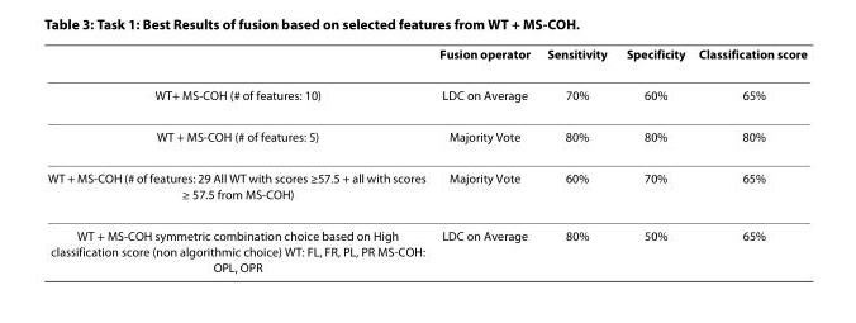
<table><thead><tr><td></td><td>Fusion operator</td><td>Sensitivity</td><td>Specificity</td><td>Classification score</td></tr></thead><tbody><tr><td>WT+ MS-COH (# of features: 10)</td><td>LDC on Average</td><td>70%</td><td>60%</td><td>65%</td></tr><tr><td>WT + MS-COH (# of features: 5)</td><td>Majority Vote</td><td>80%</td><td>80%</td><td>80%</td></tr><tr><td>WT + MS-COH (# of features: 29 All WT with scores ≥57.5 + all with scores ≥ 57.5 from MS-COH)</td><td>Majority Vote</td><td>60%</td><td>70%</td><td>65%</td></tr><tr><td>WT + MS-COH symmetric combination choice based on High classification score (non algorithmic choice) WT: FL, FR, PL, PR MS-COH: OPL, OPR</td><td>LDC on Average</td><td>80%</td><td>50%</td><td>65%</td></tr></tbody></table>